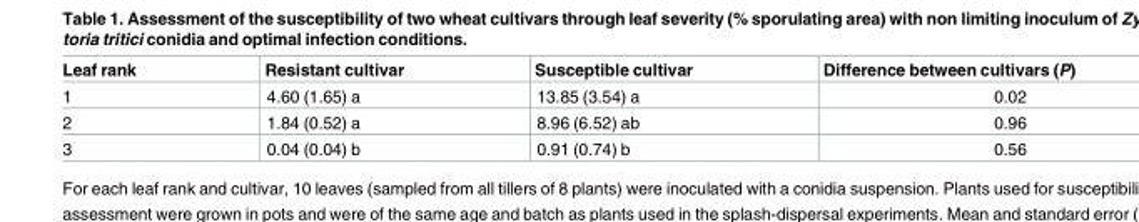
<table><thead><tr><td>Leaf rank</td><td>Resistant cultivar</td><td>Susceptible cultivar</td><td>Difference between cultivars (P)</td></tr></thead><tbody><tr><td>1</td><td>4.60 (1.65) a</td><td>13.85 (3.54) a</td><td>0.02</td></tr><tr><td>2</td><td>1.84 (0.52) a</td><td>8.96 (6.52) ab</td><td>0.96</td></tr><tr><td>3</td><td>0.04 (0.04) b</td><td>0.91 (0.74) b</td><td>0.56</td></tr></tbody></table>